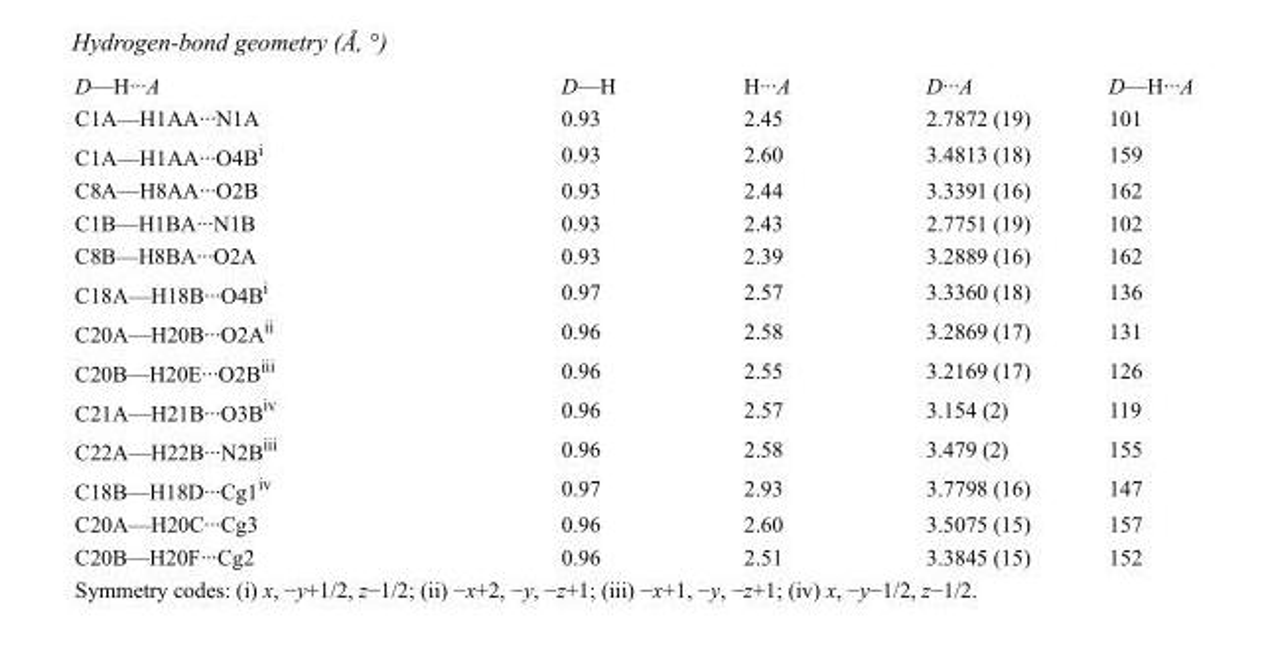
<table><tbody><tr><td>D—H···A</td><td>D—H</td><td>H···A</td><td>D···A</td><td>D—H···A</td></tr><tr><td>C1A—H1AA···N1A</td><td>0.93</td><td>2.45</td><td>2.7872 (19)</td><td>101</td></tr><tr><td>C1A—H1AA···O4B<sup>i</sup></td><td>0.93</td><td>2.60</td><td>3.4813 (18)</td><td>159</td></tr><tr><td>C8A—H8AA···O2B</td><td>0.93</td><td>2.44</td><td>3.3391 (16)</td><td>162</td></tr><tr><td>C1B—H1BA···N1B</td><td>0.93</td><td>2.43</td><td>2.7751 (19)</td><td>102</td></tr><tr><td>C8B—H8BA···O2A</td><td>0.93</td><td>2.39</td><td>3.2889 (16)</td><td>162</td></tr><tr><td>C18A—H18B···O4B<sup>i</sup></td><td>0.97</td><td>2.57</td><td>3.3360 (18)</td><td>136</td></tr><tr><td>C20A—H20B···O2A<sup>ii</sup></td><td>0.96</td><td>2.58</td><td>3.2869 (17)</td><td>131</td></tr><tr><td>C20B—H20E···O2B<sup>iii</sup></td><td>0.96</td><td>2.55</td><td>3.2169 (17)</td><td>126</td></tr><tr><td>C21A—H21B···O3B<sup>iv</sup></td><td>0.96</td><td>2.57</td><td>3.154 (2)</td><td>119</td></tr><tr><td>C22A—H22B···N2B<sup>iii</sup></td><td>0.96</td><td>2.58</td><td>3.479 (2)</td><td>155</td></tr><tr><td>C18B—H18D···Cg1<sup>iv</sup></td><td>0.97</td><td>2.93</td><td>3.7798 (16)</td><td>147</td></tr><tr><td>C20A—H20C···Cg3</td><td>0.96</td><td>2.60</td><td>3.5075 (15)</td><td>157</td></tr><tr><td>C20B—H20F···Cg2</td><td>0.96</td><td>2.51</td><td>3.3845 (15)</td><td>152</td></tr></tbody></table>